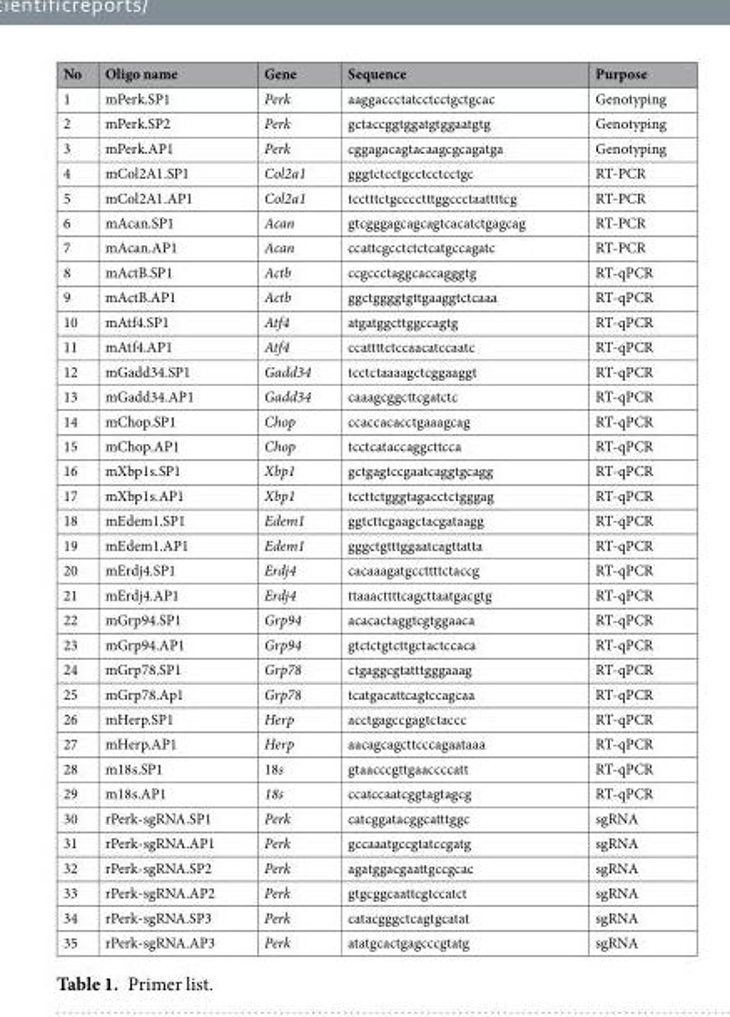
<table><thead><tr><td>No</td><td>Oligo name</td><td>Gene</td><td>Sequence</td><td>Purpose</td></tr></thead><tbody><tr><td>1</td><td>mPerk.SP1</td><td>Perk</td><td>aaggaccctatcctcctgctgcac</td><td>Genotyping</td></tr><tr><td>2</td><td>mPerk.SP2</td><td>Perk</td><td>gctaccggtggatgtggaatgtg</td><td>Genotyping</td></tr><tr><td>3</td><td>mPerk.AP1</td><td>Perk</td><td>cggagacagtacaagcgcagatga</td><td>Genotyping</td></tr><tr><td>4</td><td>mCol2A1.SP1</td><td>Col2a1</td><td>gggtctcctgcctcctcctgc</td><td>RT-PCR</td></tr><tr><td>5</td><td>mCol2A1.AP1</td><td>Col2a1</td><td>tcctttctgcccctttggccctaattttcg</td><td>RT-PCR</td></tr><tr><td>6</td><td>mAcan.SP1</td><td>Acan</td><td>gtcgggagcagcagtcacatctgagcag</td><td>RT-PCR</td></tr><tr><td>7</td><td>mAcan.AP1</td><td>Acan</td><td>ccattcgcctctctcatgccagatc</td><td>RT-PCR</td></tr><tr><td>8</td><td>mActB.SP1</td><td>Actb</td><td>ccgccctaggcaccagggtg</td><td>RT-qPCR</td></tr><tr><td>9</td><td>mActB.AP1</td><td>Actb</td><td>ggctggggtgttgaaggtctcaaa</td><td>RT-qPCR</td></tr><tr><td>10</td><td>mAtf4.SP1</td><td>Atf4</td><td>atgatggcttggccagtg</td><td>RT-qPCR</td></tr><tr><td>11</td><td>mAtf4.AP1</td><td>Atf4</td><td>ccattttctccaacatccaatc</td><td>RT-qPCR</td></tr><tr><td>12</td><td>mGadd34.SP1</td><td>Gadd34</td><td>tcctctaaaagctcggaaggt</td><td>RT-qPCR</td></tr><tr><td>13</td><td>mGadd34.AP1</td><td>Gadd34</td><td>caaagcggcttcgatctc</td><td>RT-qPCR</td></tr><tr><td>14</td><td>mChop.SP1</td><td>Chop</td><td>ccaccacacctgaaagcag</td><td>RT-qPCR</td></tr><tr><td>15</td><td>mChop.AP1</td><td>Chop</td><td>tcctcataccaggcttcca</td><td>RT-qPCR</td></tr><tr><td>16</td><td>mXbp1s.SP1</td><td>Xbp1</td><td>gctgagtccgaatcaggtgcagg</td><td>RT-qPCR</td></tr><tr><td>17</td><td>mXbp1s.AP1</td><td>Xbp1</td><td>tccttctgggtagacctctgggag</td><td>RT-qPCR</td></tr><tr><td>18</td><td>mEdem1.SP1</td><td>Edem1</td><td>ggtcttcgaagctacgataagg</td><td>RT-qPCR</td></tr><tr><td>19</td><td>mEdem1.AP1</td><td>Edem1</td><td>gggctgtttggaatcagttatta</td><td>RT-qPCR</td></tr><tr><td>20</td><td>mErdj4.SP1</td><td>Erdj4</td><td>cacaaagatgccttttctaccg</td><td>RT-qPCR</td></tr><tr><td>21</td><td>mErdj4.AP1</td><td>Erdj4</td><td>ttaaacttttcagcttaatgacgtg</td><td>RT-qPCR</td></tr><tr><td>22</td><td>mGrp94.SP1</td><td>Grp94</td><td>acacactaggtcgtggaaca</td><td>RT-qPCR</td></tr><tr><td>23</td><td>mGrp94.AP1</td><td>Grp94</td><td>gtctctgtcttgctactccaca</td><td>RT-qPCR</td></tr><tr><td>24</td><td>mGrp78.SP1</td><td>Grp78</td><td>ctgaggcgtatttgggaaag</td><td>RT-qPCR</td></tr><tr><td>25</td><td>mGrp78.Ap1</td><td>Grp78</td><td>tcatgacattcagtccagcaa</td><td>RT-qPCR</td></tr><tr><td>26</td><td>mHerp.SP1</td><td>Herp</td><td>acctgagccgagtctaccc</td><td>RT-qPCR</td></tr><tr><td>27</td><td>mHerp.AP1</td><td>Herp</td><td>aacagcagcttcccagaataaa</td><td>RT-qPCR</td></tr><tr><td>28</td><td>m18s.SP1</td><td>18s</td><td>gtaacccgttgaaccccatt</td><td>RT-qPCR</td></tr><tr><td>29</td><td>m18s.AP1</td><td>18s</td><td>ccatccaatcggtagtagcg</td><td>RT-qPCR</td></tr><tr><td>30</td><td>rPerk-sgRNA.SP1</td><td>Perk</td><td>catcggatacggcatttggc</td><td>sgRNA</td></tr><tr><td>31</td><td>rPerk-sgRNA.AP1</td><td>Perk</td><td>gccaaatgccgtatccgatg</td><td>sgRNA</td></tr><tr><td>32</td><td>rPerk-sgRNA.SP2</td><td>Perk</td><td>agatggacgaattgccgcac</td><td>sgRNA</td></tr><tr><td>33</td><td>rPerk-sgRNA.AP2</td><td>Perk</td><td>gtgcggcaattcgtccatct</td><td>sgRNA</td></tr><tr><td>34</td><td>rPerk-sgRNA.SP3</td><td>Perk</td><td>catacgggctcagtgcatat</td><td>sgRNA</td></tr><tr><td>35</td><td>rPerk-sgRNA.AP3</td><td>Perk</td><td>atatgcactgagcccgtatg</td><td>sgRNA</td></tr></tbody></table>